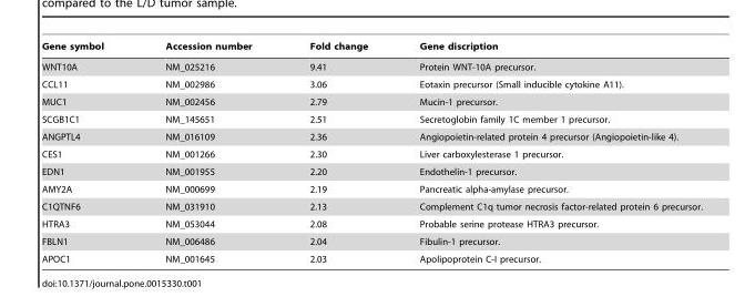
<table><thead><tr><td>Gene symbol</td><td>Accession number</td><td>Fold change</td><td>Gene discription</td></tr></thead><tbody><tr><td>WNT10A</td><td>NM_025216</td><td>9.41</td><td>Protein WNT-10A precursor.</td></tr><tr><td>CCL11</td><td>NM_002986</td><td>3.06</td><td>Eotaxin precursor (Small inducible cytokine A11).</td></tr><tr><td>MUC1</td><td>NM_002456</td><td>2.79</td><td>Mucin-1 precursor.</td></tr><tr><td>SCGB1C1</td><td>NM_145651</td><td>2.51</td><td>Secretoglobin family 1C member 1 precursor.</td></tr><tr><td>ANGPTL4</td><td>NM_016109</td><td>2.36</td><td>Angiopoietin-related protein 4 precursor (Angiopoietin-like 4).</td></tr><tr><td>CES1</td><td>NM_001266</td><td>2.30</td><td>Liver carboxylesterase 1 precursor.</td></tr><tr><td>EDN1</td><td>NM_001955</td><td>2.20</td><td>Endothelin-1 precursor.</td></tr><tr><td>AMY2A</td><td>NM_000699</td><td>2.19</td><td>Pancreatic alpha-amylase precursor.</td></tr><tr><td>C1QTNF6</td><td>NM_031910</td><td>2.13</td><td>Complement C1q tumor necrosis factor-related protein 6 precursor.</td></tr><tr><td>HTRA3</td><td>NM_053044</td><td>2.08</td><td>Probable serine protease HTRA3 precursor.</td></tr><tr><td>FBLN1</td><td>NM_006486</td><td>2.04</td><td>Fibulin-1 precursor.</td></tr><tr><td>APOC1</td><td>NM_001645</td><td>2.03</td><td>Apolipoprotein C-I precursor.</td></tr></tbody></table>